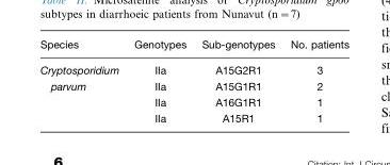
<table><thead><tr><td>Species</td><td>Genotypes</td><td>Sub-genotypes</td><td>No. patients</td></tr></thead><tbody><tr><td>Cryptosporidium</td><td>IIa</td><td>A15G2R1</td><td>3</td></tr><tr><td rowspan="3">parvum</td><td>IIa</td><td>A15G1R1</td><td>2</td></tr><tr><td>IIa</td><td>A16G1R1</td><td>1</td></tr><tr><td>IIa</td><td>A15R1</td><td>1</td></tr></tbody></table>